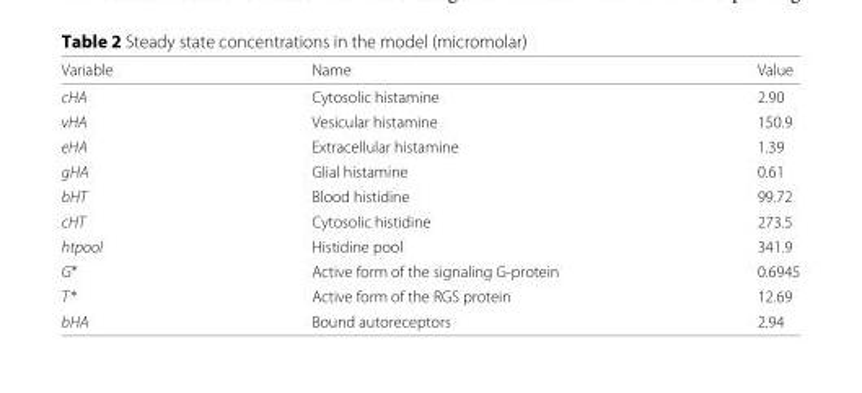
<table><thead><tr><td>Variable</td><td>Name</td><td>Value</td></tr></thead><tbody><tr><td>cHA</td><td>Cytosolic histamine</td><td>2.90</td></tr><tr><td>vHA</td><td>Vesicular histamine</td><td>150.9</td></tr><tr><td>eHA</td><td>Extracellular histamine</td><td>1.39</td></tr><tr><td>gHA</td><td>Glial histamine</td><td>0.61</td></tr><tr><td>bHT</td><td>Blood histidine</td><td>99.72</td></tr><tr><td>cHT</td><td>Cytosolic histidine</td><td>273.5</td></tr><tr><td>htpool</td><td>Histidine pool</td><td>341.9</td></tr><tr><td>G∗</td><td>Active form of the signaling G-protein</td><td>0.6945</td></tr><tr><td>T∗</td><td>Active form of the RGS protein</td><td>12.69</td></tr><tr><td>bHA</td><td>Bound autoreceptors</td><td>2.94</td></tr></tbody></table>